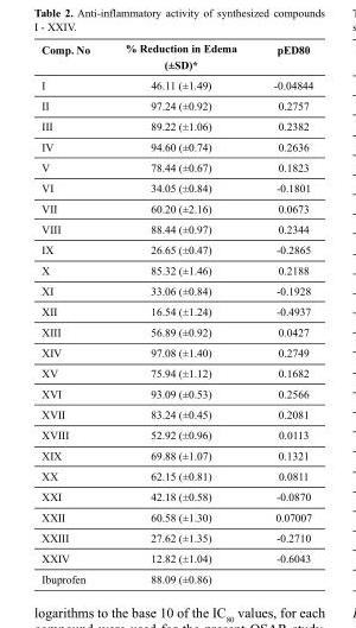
<table><thead><tr><td>Comp. No</td><td>% Reduction in Edema (±SD)*</td><td>pED80</td></tr></thead><tbody><tr><td>I</td><td>46.11 (±1.49)</td><td>-0.04844</td></tr><tr><td>II</td><td>97.24 (±0.92)</td><td>0.2757</td></tr><tr><td>III</td><td>89.22 (±1.06)</td><td>0.2382</td></tr><tr><td>IV</td><td>94.60 (±0.74)</td><td>0.2636</td></tr><tr><td>V</td><td>78.44 (±0.67)</td><td>0.1823</td></tr><tr><td>VI</td><td>34.05 (±0.84)</td><td>-0.1801</td></tr><tr><td>VII</td><td>60.20 (±2.16)</td><td>0.0673</td></tr><tr><td>VIII</td><td>88.44 (±0.97)</td><td>0.2344</td></tr><tr><td>IX</td><td>26.65 (±0.47)</td><td>-0.2865</td></tr><tr><td>X</td><td>85.32 (±1.46)</td><td>0.2188</td></tr><tr><td>XI</td><td>33.06 (±0.84)</td><td>-0.1928</td></tr><tr><td>XII</td><td>16.54 (±1.24)</td><td>-0.4937</td></tr><tr><td>XIII</td><td>56.89 (±0.92)</td><td>0.0427</td></tr><tr><td>XIV</td><td>97.08 (±1.40)</td><td>0.2749</td></tr><tr><td>XV</td><td>75.94 (±1.12)</td><td>0.1682</td></tr><tr><td>XVI</td><td>93.09 (±0.53)</td><td>0.2566</td></tr><tr><td>XVII</td><td>83.24 (±0.45)</td><td>0.2081</td></tr><tr><td>XVIII</td><td>52.92 (±0.96)</td><td>0.0113</td></tr><tr><td>XIX</td><td>69.88 (±1.07)</td><td>0.1321</td></tr><tr><td>XX</td><td>62.15 (±0.81)</td><td>0.0811</td></tr><tr><td>XXI</td><td>42.18 (±0.58)</td><td>-0.0870</td></tr><tr><td>XXII</td><td>60.58 (±1.30)</td><td>0.07007</td></tr><tr><td>XXIII</td><td>27.62 (±1.35)</td><td>-0.2710</td></tr><tr><td>XXIV</td><td>12.82 (±1.04)</td><td>-0.6043</td></tr><tr><td>Ibuprofen</td><td>88.09 (±0.86)</td><td></td></tr></tbody></table>